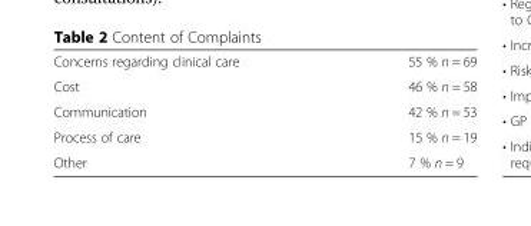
<table><tbody><tr><td>Concerns regarding clinical care</td><td>55 % n = 69</td></tr><tr><td>Cost</td><td>46 % n = 58</td></tr><tr><td>Communication</td><td>42 % n = 53</td></tr><tr><td>Process of care</td><td>15 % n = 19</td></tr><tr><td>Other</td><td>7 % n = 9</td></tr></tbody></table>